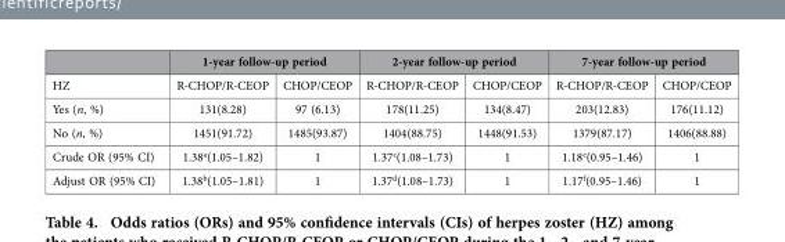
<table><thead><tr><td rowspan="2">HZ</td><td colspan="2">1-year follow-up period</td><td colspan="2">2-year follow-up period</td><td colspan="2">7-year follow-up period</td></tr><tr><td>R-CHOP/R-CEOP</td><td>CHOP/CEOP</td><td>R-CHOP/R-CEOP</td><td>CHOP/CEOP</td><td>R-CHOP/R-CEOP</td><td>CHOP/CEOP</td></tr></thead><tbody><tr><td>Yes (n, %)</td><td>131(8.28)</td><td>97 (6.13)</td><td>178(11.25)</td><td>134(8.47)</td><td>203(12.83)</td><td>176(11.12)</td></tr><tr><td>No (n, %)</td><td>1451(91.72)</td><td>1485(93.87)</td><td>1404(88.75)</td><td>1448(91.53)</td><td>1379(87.17)</td><td>1406(88.88)</td></tr><tr><td>Crude OR (95% CI)</td><td>1.38<sup>a</sup>(1.05–1.82)</td><td>1</td><td>1.37<sup>c</sup>(1.08–1.73)</td><td>1</td><td>1.18<sup>e</sup>(0.95–1.46)</td><td>1</td></tr><tr><td>Adjust OR (95% CI)</td><td>1.38<sup>b</sup>(1.05–1.81)</td><td>1</td><td>1.37<sup>d</sup>(1.08–1.73)</td><td>1</td><td>1.17<sup>f</sup>(0.95–1.46)</td><td>1</td></tr></tbody></table>